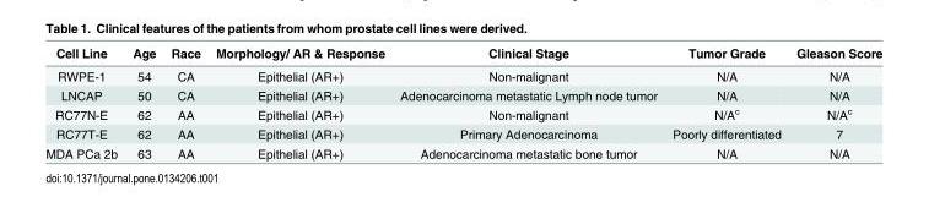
<table><thead><tr><td>Cell Line</td><td>Age</td><td>Race</td><td>Morphology/ AR &amp; Response</td><td>Clinical Stage</td><td>Tumor Grade</td><td>Gleason Score</td></tr></thead><tbody><tr><td>RWPE-1</td><td>54</td><td>CA</td><td>Epithelial (AR+)</td><td>Non-malignant</td><td>N/A</td><td>N/A</td></tr><tr><td>LNCAP</td><td>50</td><td>CA</td><td>Epithelial (AR+)</td><td>Adenocarcinoma metastatic Lymph node tumor</td><td>N/A</td><td>N/A</td></tr><tr><td>RC77N-E</td><td>62</td><td>AA</td><td>Epithelial (AR+)</td><td>Non-malignant</td><td>N/A<sup>c</sup></td><td>N/A<sup>c</sup></td></tr><tr><td>RC77T-E</td><td>62</td><td>AA</td><td>Epithelial (AR+)</td><td>Primary Adenocarcinoma</td><td>Poorly differentiated</td><td>7</td></tr><tr><td>MDA PCa 2b</td><td>63</td><td>AA</td><td>Epithelial (AR+)</td><td>Adenocarcinoma metastatic bone tumor</td><td>N/A</td><td>N/A</td></tr></tbody></table>